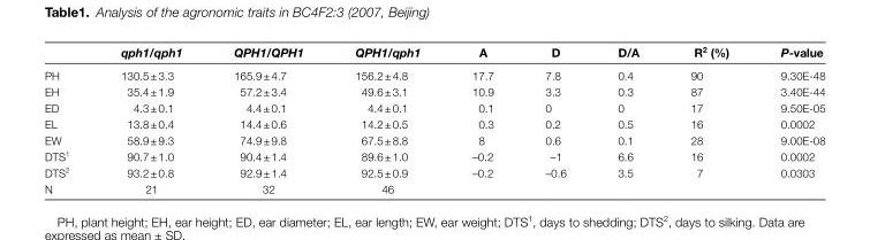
<table><thead><tr><td></td><td>qph1/qph1</td><td>QPH1/QPH1</td><td>QPH1/qph1</td><td>A</td><td>D</td><td>D/A</td><td>R<sup>2</sup> (%)</td><td>P-value</td></tr></thead><tbody><tr><td>PH</td><td>130.5 ± 3.3</td><td>165.9 ± 4.7</td><td>156.2 ± 4.8</td><td>17.7</td><td>7.8</td><td>0.4</td><td>90</td><td>9.30E-48</td></tr><tr><td>EH</td><td>35.4 ± 1.9</td><td>57.2 ± 3.4</td><td>49.6 ± 3.1</td><td>10.9</td><td>3.3</td><td>0.3</td><td>87</td><td>3.40E-44</td></tr><tr><td>ED</td><td>4.3 ± 0.1</td><td>4.4 ± 0.1</td><td>4.4 ± 0.1</td><td>0.1</td><td>0</td><td>0</td><td>17</td><td>9.50E-05</td></tr><tr><td>EL</td><td>13.8 ± 0.4</td><td>14.4 ± 0.6</td><td>14.2 ± 0.5</td><td>0.3</td><td>0.2</td><td>0.5</td><td>16</td><td>0.0002</td></tr><tr><td>EW</td><td>58.9 ± 9.3</td><td>74.9 ± 9.8</td><td>67.5 ± 8.8</td><td>8</td><td>0.6</td><td>0.1</td><td>28</td><td>9.00E-08</td></tr><tr><td>DTS<sup>1</sup></td><td>90.7 ± 1.0</td><td>90.4 ± 1.4</td><td>89.6 ± 1.0</td><td>–0.2</td><td>–1</td><td>6.6</td><td>16</td><td>0.0002</td></tr><tr><td>DTS<sup>2</sup></td><td>93.2 ± 0.8</td><td>92.9 ± 1.4</td><td>92.5 ± 0.9</td><td>–0.2</td><td>–0.6</td><td>3.5</td><td>7</td><td>0.0303</td></tr><tr><td>N</td><td>21</td><td>32</td><td>46</td><td></td><td></td><td></td><td></td><td></td></tr></tbody></table>